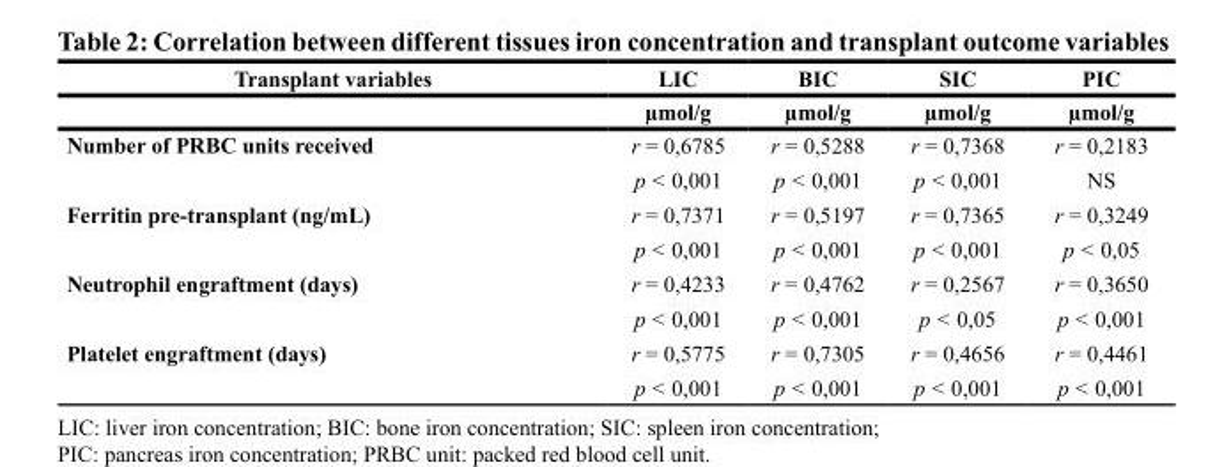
<table><thead><tr><td rowspan="2">Transplant variables</td><td rowspan="2">LIC µmol/g</td><td rowspan="2">BIC µmol/g</td><td rowspan="2">SIC µmol/g</td><td rowspan="2">PIC µmol/g</td></tr><tr></tr></thead><tbody><tr><td rowspan="2">Number of PRBC units received</td><td>r = 0,6785</td><td>r = 0,5288</td><td>r = 0,7368</td><td>r = 0,2183</td></tr><tr><td>p &lt; 0,001</td><td>p &lt; 0,001</td><td>p &lt; 0,001</td><td>NS</td></tr><tr><td rowspan="2">Ferritin pre-transplant (ng/mL)</td><td>r = 0,7371</td><td>r = 0,5197</td><td>r = 0,7365</td><td>r = 0,3249</td></tr><tr><td>p &lt; 0,001</td><td>p &lt; 0,001</td><td>p &lt; 0,001</td><td>p &lt; 0,05</td></tr><tr><td rowspan="2">Neutrophil engraftment (days)</td><td>r = 0,4233</td><td>r = 0,4762</td><td>r = 0,2567</td><td>r = 0,3650</td></tr><tr><td>p &lt; 0,001</td><td>p &lt; 0,001</td><td>p &lt; 0,05</td><td>p &lt; 0,001</td></tr><tr><td rowspan="2">Platelet engraftment (days)</td><td>r = 0,5775</td><td>r = 0,7305</td><td>r = 0,4656</td><td>r = 0,4461</td></tr><tr><td>p &lt; 0,001</td><td>p &lt; 0,001</td><td>p &lt; 0,001</td><td>p &lt; 0,001</td></tr></tbody></table>